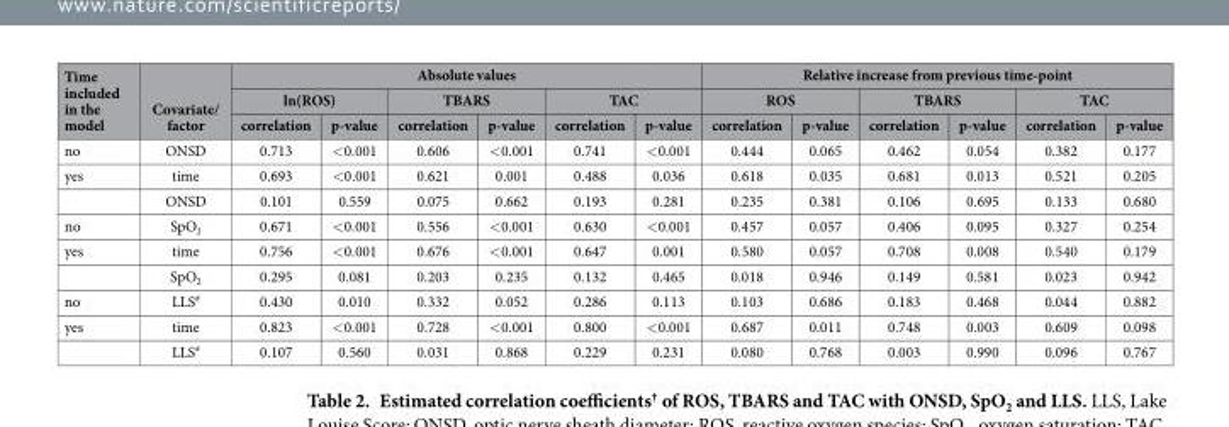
<table><thead><tr><td rowspan="3">Time included in the model</td><td rowspan="3">Covariate/ factor</td><td colspan="6">Absolute values</td><td colspan="6">Relative increase from previous time-point</td></tr><tr><td colspan="2">ln(ROS)</td><td colspan="2">TBARS</td><td colspan="2">TAC</td><td colspan="2">ROS</td><td colspan="2">TBARS</td><td colspan="2">TAC</td></tr><tr><td>correlation</td><td>p-value</td><td>correlation</td><td>p-value</td><td>correlation</td><td>p-value</td><td>correlation</td><td>p-value</td><td>correlation</td><td>p-value</td><td>correlation</td><td>p-value</td></tr></thead><tbody><tr><td>no</td><td>ONSD</td><td>0.713</td><td>&lt; 0.001</td><td>0.606</td><td>&lt; 0.001</td><td>0.741</td><td>&lt; 0.001</td><td>0.444</td><td>0.065</td><td>0.462</td><td>0.054</td><td>0.382</td><td>0.177</td></tr><tr><td rowspan="2">yes</td><td>time</td><td>0.693</td><td>&lt; 0.001</td><td>0.621</td><td>0.001</td><td>0.488</td><td>0.036</td><td>0.618</td><td>0.035</td><td>0.681</td><td>0.013</td><td>0.521</td><td>0.205</td></tr><tr><td>ONSD</td><td>0.101</td><td>0.559</td><td>0.075</td><td>0.662</td><td>0.193</td><td>0.281</td><td>0.235</td><td>0.381</td><td>0.106</td><td>0.695</td><td>0.133</td><td>0.680</td></tr><tr><td>no</td><td>SpO<sub>2</sub></td><td>0.671</td><td>&lt; 0.001</td><td>0.556</td><td>&lt; 0.001</td><td>0.630</td><td>&lt; 0.001</td><td>0.457</td><td>0.057</td><td>0.406</td><td>0.095</td><td>0.327</td><td>0.254</td></tr><tr><td rowspan="2">yes</td><td>time</td><td>0.756</td><td>&lt; 0.001</td><td>0.676</td><td>&lt; 0.001</td><td>0.647</td><td>0.001</td><td>0.580</td><td>0.057</td><td>0.708</td><td>0.008</td><td>0.540</td><td>0.179</td></tr><tr><td>SpO<sub>2</sub></td><td>0.295</td><td>0.081</td><td>0.203</td><td>0.235</td><td>0.132</td><td>0.465</td><td>0.018</td><td>0.946</td><td>0.149</td><td>0.581</td><td>0.023</td><td>0.942</td></tr><tr><td>no</td><td>LLS#</td><td>0.430</td><td>0.010</td><td>0.332</td><td>0.052</td><td>0.286</td><td>0.113</td><td>0.103</td><td>0.686</td><td>0.183</td><td>0.468</td><td>0.044</td><td>0.882</td></tr><tr><td rowspan="2">yes</td><td>time</td><td>0.823</td><td>&lt; 0.001</td><td>0.728</td><td>&lt; 0.001</td><td>0.800</td><td>&lt; 0.001</td><td>0.687</td><td>0.011</td><td>0.748</td><td>0.003</td><td>0.609</td><td>0.098</td></tr><tr><td>LLS#</td><td>0.107</td><td>0.560</td><td>0.031</td><td>0.868</td><td>0.229</td><td>0.231</td><td>0.080</td><td>0.768</td><td>0.003</td><td>0.990</td><td>0.096</td><td>0.767</td></tr></tbody></table>